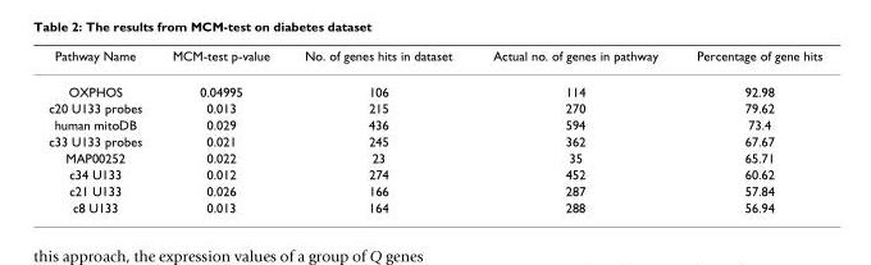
<table><thead><tr><td>Pathway Name</td><td>MCM-test p-value</td><td>No. of genes hits in dataset</td><td>Actual no. of genes in pathway</td><td>Percentage of gene hits</td></tr></thead><tbody><tr><td>OXPHOS</td><td>0.04995</td><td>106</td><td>114</td><td>92.98</td></tr><tr><td>c20 U133 probes</td><td>0.013</td><td>215</td><td>270</td><td>79.62</td></tr><tr><td>human mitoDB</td><td>0.029</td><td>436</td><td>594</td><td>73.4</td></tr><tr><td>c33 U133 probes</td><td>0.021</td><td>245</td><td>362</td><td>67.67</td></tr><tr><td>MAP00252</td><td>0.022</td><td>23</td><td>35</td><td>65.71</td></tr><tr><td>c34 U133</td><td>0.012</td><td>274</td><td>452</td><td>60.62</td></tr><tr><td>c21 U133</td><td>0.026</td><td>166</td><td>287</td><td>57.84</td></tr><tr><td>c8 U133</td><td>0.013</td><td>164</td><td>288</td><td>56.94</td></tr></tbody></table>